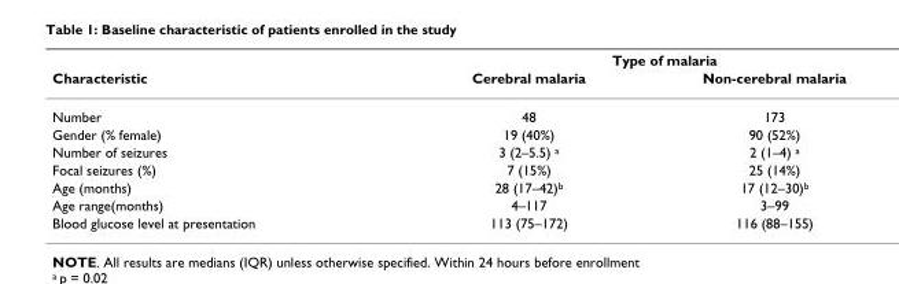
<table><thead><tr><td rowspan="2">Characteristic</td><td colspan="2">Type of malaria</td></tr><tr><td>Cerebral malaria</td><td>Non-cerebral malaria</td></tr></thead><tbody><tr><td>Number</td><td>48</td><td>173</td></tr><tr><td>Gender (% female)</td><td>19 (40%)</td><td>90 (52%)</td></tr><tr><td>Number of seizures</td><td>3 (2–5.5) <sup>a</sup></td><td>2 (1–4) <sup>a</sup></td></tr><tr><td>Focal seizures (%)</td><td>7 (15%)</td><td>25 (14%)</td></tr><tr><td>Age (months)</td><td>28 (17–42)<sup>b</sup></td><td>17 (12–30)<sup>b</sup></td></tr><tr><td>Age range(months)</td><td>4–117</td><td>3–99</td></tr><tr><td>Blood glucose level at presentation</td><td>113 (75–172)</td><td>116 (88–155)</td></tr></tbody></table>